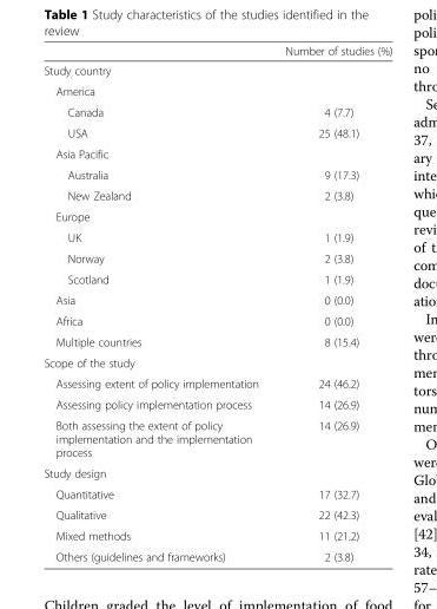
<table><thead><tr><td></td><td>Number of studies (%)</td></tr></thead><tbody><tr><td colspan="2">Study country</td></tr><tr><td colspan="2">America</td></tr><tr><td>Canada</td><td>4 (7.7)</td></tr><tr><td>USA</td><td>25 (48.1)</td></tr><tr><td colspan="2">Asia Pacific</td></tr><tr><td>Australia</td><td>9 (17.3)</td></tr><tr><td>New Zealand</td><td>2 (3.8)</td></tr><tr><td colspan="2">Europe</td></tr><tr><td>UK</td><td>1 (1.9)</td></tr><tr><td>Norway</td><td>2 (3.8)</td></tr><tr><td>Scotland</td><td>1 (1.9)</td></tr><tr><td>Asia</td><td>0 (0.0)</td></tr><tr><td>Africa</td><td>0 (0.0)</td></tr><tr><td>Multiple countries</td><td>8 (15.4)</td></tr><tr><td colspan="2">Scope of the study</td></tr><tr><td>Assessing extent of policy implementation</td><td>24 (46.2)</td></tr><tr><td>Assessing policy implementation process</td><td>14 (26.9)</td></tr><tr><td>Both assessing the extent of policy implementation and the implementation process</td><td>14 (26.9)</td></tr><tr><td colspan="2">Study design</td></tr><tr><td>Quantitative</td><td>17 (32.7)</td></tr><tr><td>Qualitative</td><td>22 (42.3)</td></tr><tr><td>Mixed methods</td><td>11 (21.2)</td></tr><tr><td>Others (guidelines and frameworks)</td><td>2 (3.8)</td></tr></tbody></table>